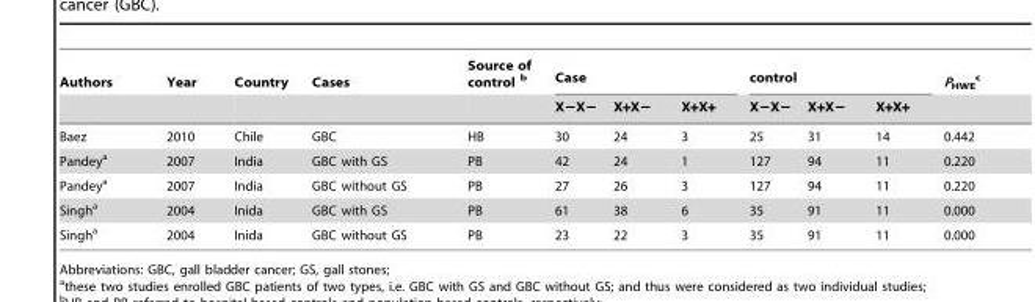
<table><thead><tr><td rowspan="2">Authors</td><td rowspan="2">Year</td><td rowspan="2">Country</td><td rowspan="2">Cases</td><td rowspan="2">Source of control b</td><td colspan="3">Case</td><td colspan="3">control</td><td rowspan="2">PHWE</td></tr><tr><td>X−X−</td><td>X+X−</td><td>X+X+</td><td>X−X−</td><td>X+X−</td><td>X+X+</td></tr></thead><tbody><tr><td>Baez</td><td>2010</td><td>Chile</td><td>GBC</td><td>HB</td><td>30</td><td>24</td><td>3</td><td>25</td><td>31</td><td>14</td><td>0.442</td></tr><tr><td>Pandey<sup>a</sup></td><td>2007</td><td>India</td><td>GBC with GS</td><td>PB</td><td>42</td><td>24</td><td>1</td><td>127</td><td>94</td><td>11</td><td>0.220</td></tr><tr><td>Pandey<sup>a</sup></td><td>2007</td><td>India</td><td>GBC without GS</td><td>PB</td><td>27</td><td>26</td><td>3</td><td>127</td><td>94</td><td>11</td><td>0.220</td></tr><tr><td>Singh<sup>a</sup></td><td>2004</td><td>Inida</td><td>GBC with GS</td><td>PB</td><td>61</td><td>38</td><td>6</td><td>35</td><td>91</td><td>11</td><td>0.000</td></tr><tr><td>Singh<sup>a</sup></td><td>2004</td><td>Inida</td><td>GBC without GS</td><td>PB</td><td>23</td><td>22</td><td>3</td><td>35</td><td>91</td><td>11</td><td>0.000</td></tr></tbody></table>